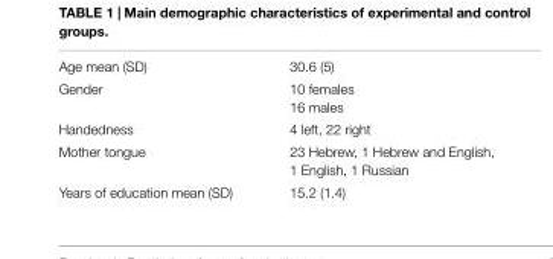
<table><tbody><tr><td>Age mean (SD)</td><td>30.6 (5)</td></tr><tr><td>Gender</td><td>10 females 16 males</td></tr><tr><td>Handedness</td><td>4 left, 22 right</td></tr><tr><td>Mother tongue</td><td>23 Hebrew, 1 Hebrew and English, 1 English, 1 Russian</td></tr><tr><td>Years of education mean (SD)</td><td>15.2 (1.4)</td></tr></tbody></table>